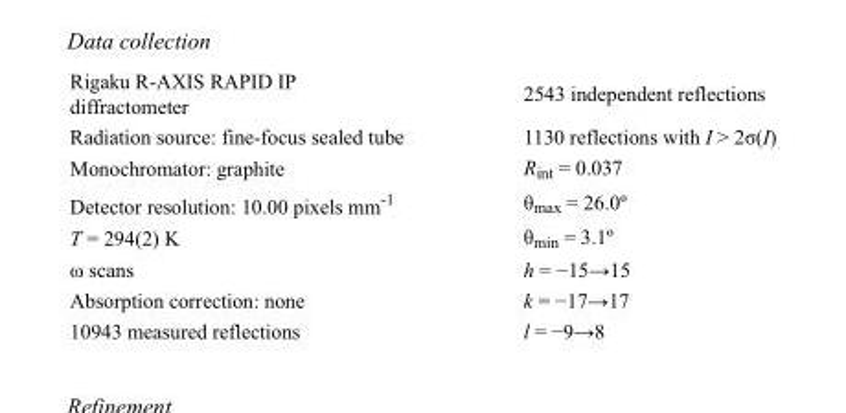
<table><tbody><tr><td>Rigaku R-AXIS RAPID IP diffractometer</td><td>2543 independent reflections</td></tr><tr><td>Radiation source: fine-focus sealed tube</td><td>1130 reflections with I &gt; 2σ(I)</td></tr><tr><td>Monochromator: graphite</td><td>R<sub>int</sub> = 0.037</td></tr><tr><td>Detector resolution: 10.00 pixels mm<sup>-1</sup></td><td>θ<sub>max</sub> = 26.0º</td></tr><tr><td>T = 294(2) K</td><td>θ<sub>min</sub> = 3.1º</td></tr><tr><td>ω scans</td><td>h = −15→15</td></tr><tr><td>Absorption correction: none</td><td>k = −17→17</td></tr><tr><td>10943 measured reflections</td><td>l = −9→8</td></tr></tbody></table>